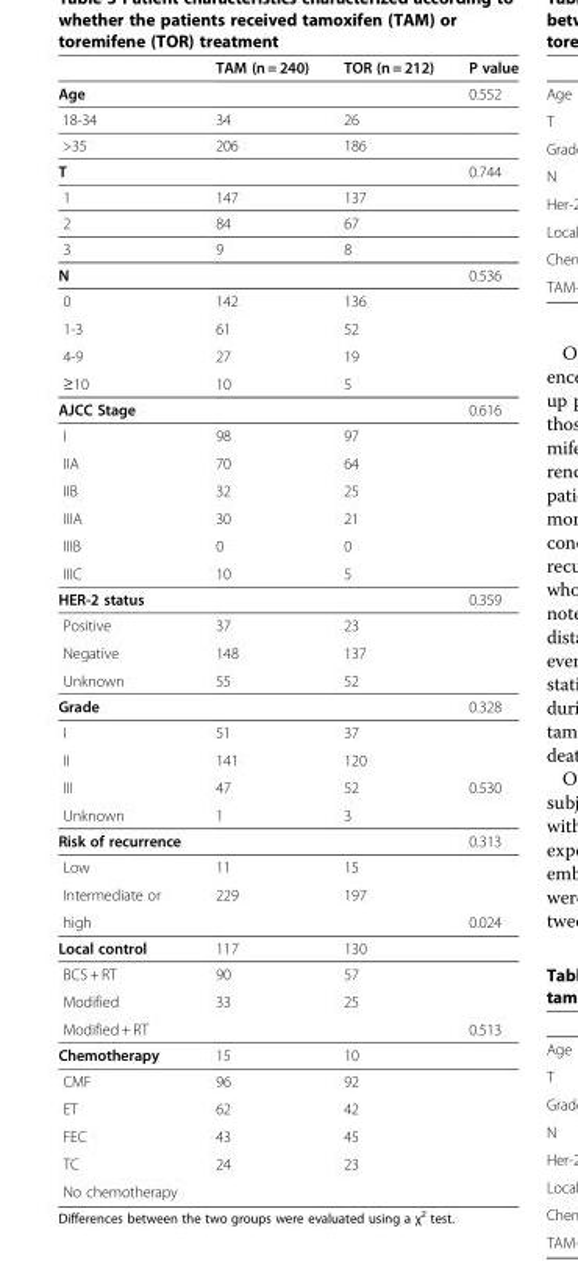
<table><thead><tr><td></td><td>TAM (n = 240)</td><td>TOR (n = 212)</td><td>P value</td></tr></thead><tbody><tr><td>Age</td><td></td><td></td><td>0.552</td></tr><tr><td>18-34</td><td>34</td><td>26</td><td></td></tr><tr><td>&gt;35</td><td>206</td><td>186</td><td></td></tr><tr><td>T</td><td></td><td></td><td>0.744</td></tr><tr><td>1</td><td>147</td><td>137</td><td></td></tr><tr><td>2</td><td>84</td><td>67</td><td></td></tr><tr><td>3</td><td>9</td><td>8</td><td></td></tr><tr><td>N</td><td></td><td></td><td>0.536</td></tr><tr><td>0</td><td>142</td><td>136</td><td></td></tr><tr><td>1-3</td><td>61</td><td>52</td><td></td></tr><tr><td>4-9</td><td>27</td><td>19</td><td></td></tr><tr><td>≥10</td><td>10</td><td>5</td><td></td></tr><tr><td>AJCC Stage</td><td></td><td></td><td>0.616</td></tr><tr><td>I</td><td>98</td><td>97</td><td></td></tr><tr><td>IIA</td><td>70</td><td>64</td><td></td></tr><tr><td>IIB</td><td>32</td><td>25</td><td></td></tr><tr><td>IIIA</td><td>30</td><td>21</td><td></td></tr><tr><td>IIIB</td><td>0</td><td>0</td><td></td></tr><tr><td>IIIC</td><td>10</td><td>5</td><td></td></tr><tr><td>HER-2 status</td><td></td><td></td><td>0.359</td></tr><tr><td>Positive</td><td>37</td><td>23</td><td></td></tr><tr><td>Negative</td><td>148</td><td>137</td><td></td></tr><tr><td>Unknown</td><td>55</td><td>52</td><td></td></tr><tr><td>Grade</td><td></td><td></td><td>0.328</td></tr><tr><td>I</td><td>51</td><td>37</td><td></td></tr><tr><td>II</td><td>141</td><td>120</td><td></td></tr><tr><td>III</td><td>47</td><td>52</td><td>0.530</td></tr><tr><td>Unknown</td><td>1</td><td>3</td><td></td></tr><tr><td>Risk of recurrence</td><td></td><td></td><td>0.313</td></tr><tr><td>Low</td><td>11</td><td>15</td><td></td></tr><tr><td>Intermediate or</td><td>229</td><td>197</td><td></td></tr><tr><td>high</td><td></td><td></td><td>0.024</td></tr><tr><td>Local control</td><td>117</td><td>130</td><td></td></tr><tr><td>BCS + RT</td><td>90</td><td>57</td><td></td></tr><tr><td>Modified</td><td>33</td><td>25</td><td></td></tr><tr><td>Modified + RT</td><td></td><td></td><td>0.513</td></tr><tr><td>Chemotherapy</td><td>15</td><td>10</td><td></td></tr><tr><td>CMF</td><td>96</td><td>92</td><td></td></tr><tr><td>ET</td><td>62</td><td>42</td><td></td></tr><tr><td>FEC</td><td>43</td><td>45</td><td></td></tr><tr><td>TC</td><td>24</td><td>23</td><td></td></tr><tr><td>No chemotherapy</td><td></td><td></td><td></td></tr></tbody></table>